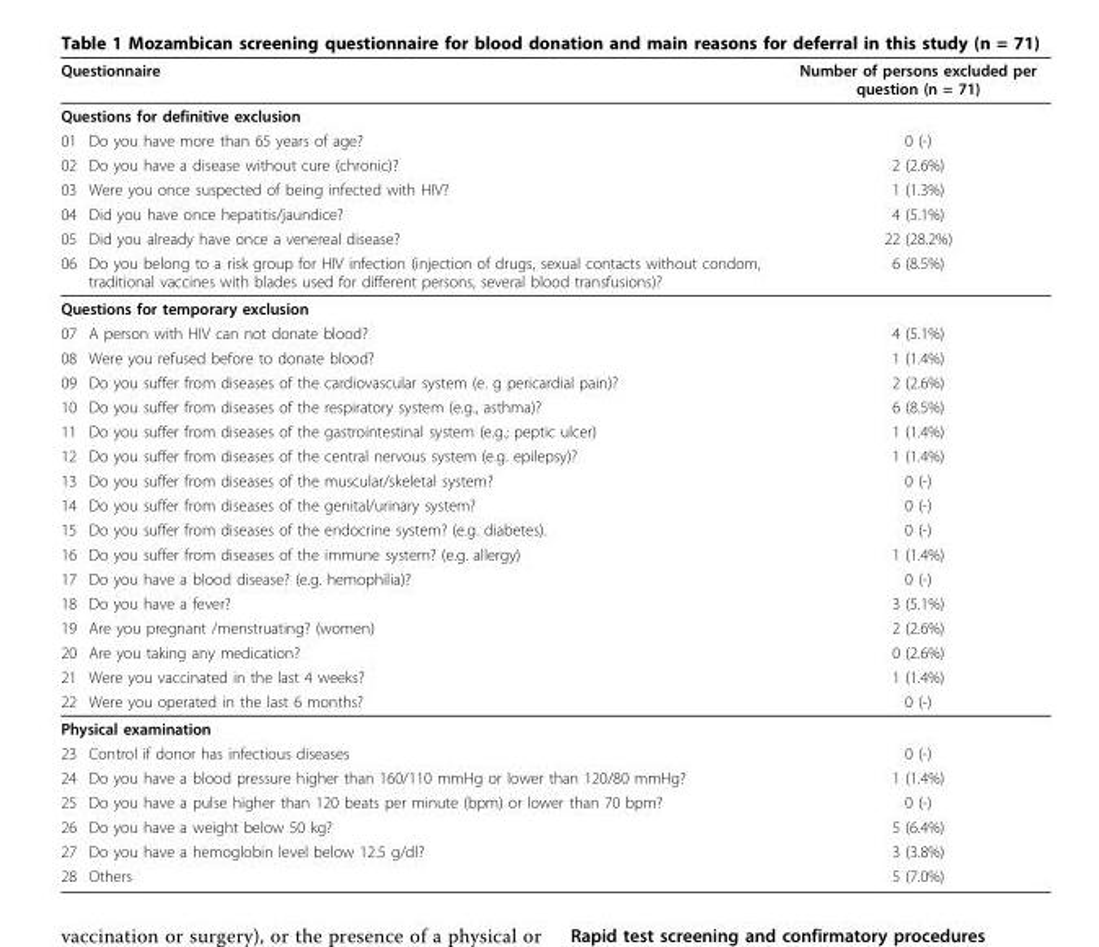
<table><thead><tr><td rowspan="2" colspan="2">Questionnaire Questions for definitive exclusion</td><td rowspan="3">Number of persons excluded per question (n = 71) 0 (-)</td></tr><tr></tr><tr><td>01</td><td>Do you have more than 65 years of age?</td></tr></thead><tbody><tr><td>02</td><td>Do you have a disease without cure (chronic)?</td><td>2 (2.6%)</td></tr><tr><td>03</td><td>Were you once suspected of being infected with HIV?</td><td>1 (1.3%)</td></tr><tr><td>04</td><td>Did you have once hepatitis/jaundice?</td><td>4 (5.1%)</td></tr><tr><td>05</td><td>Did you already have once a venereal disease?</td><td>22 (28.2%)</td></tr><tr><td>06</td><td>Do you belong to a risk group for HIV infection (injection of drugs, sexual contacts without condom, traditional vaccines with blades used for different persons, several blood transfusions)?</td><td>6 (8.5%)</td></tr><tr><td colspan="3">Questions for temporary exclusion</td></tr><tr><td>07</td><td>A person with HIV can not donate blood?</td><td>4 (5.1%)</td></tr><tr><td>08</td><td>Were you refused before to donate blood?</td><td>1 (1.4%)</td></tr><tr><td>09</td><td>Do you suffer from diseases of the cardiovascular system (e. g pericardial pain)?</td><td>2 (2.6%)</td></tr><tr><td>10</td><td>Do you suffer from diseases of the respiratory system (e.g., asthma)?</td><td>6 (8.5%)</td></tr><tr><td>11</td><td>Do you suffer from diseases of the gastrointestinal system (e.g.; peptic ulcer)</td><td>1 (1.4%)</td></tr><tr><td>12</td><td>Do you suffer from diseases of the central nervous system (e.g. epilepsy)?</td><td>1 (1.4%)</td></tr><tr><td>13</td><td>Do you suffer from diseases of the muscular/skeletal system?</td><td>0 (-)</td></tr><tr><td>14</td><td>Do you suffer from diseases of the genital/urinary system?</td><td>0 (-)</td></tr><tr><td>15</td><td>Do you suffer from diseases of the endocrine system? (e.g. diabetes).</td><td>0 (-)</td></tr><tr><td>16</td><td>Do you suffer from diseases of the immune system? (e.g. allergy)</td><td>1 (1.4%)</td></tr><tr><td>17</td><td>Do you have a blood disease? (e.g. hemophilia)?</td><td>0 (-)</td></tr><tr><td>18</td><td>Do you have a fever?</td><td>3 (5.1%)</td></tr><tr><td>19</td><td>Are you pregnant /menstruating? (women)</td><td>2 (2.6%)</td></tr><tr><td>20</td><td>Are you taking any medication?</td><td>0 (2.6%)</td></tr><tr><td>21</td><td>Were you vaccinated in the last 4 weeks?</td><td>1 (1.4%)</td></tr><tr><td>22</td><td>Were you operated in the last 6 months?</td><td>0 (-)</td></tr><tr><td colspan="3">Physical examination</td></tr><tr><td>23</td><td>Control if donor has infectious diseases</td><td>0 (-)</td></tr><tr><td>24</td><td>Do you have a blood pressure higher than 160/110 mmHg or lower than 120/80 mmHg?</td><td>1 (1.4%)</td></tr><tr><td>25</td><td>Do you have a pulse higher than 120 beats per minute (bpm) or lower than 70 bpm?</td><td>0 (-)</td></tr><tr><td>26</td><td>Do you have a weight below 50 kg?</td><td>5 (6.4%)</td></tr><tr><td>27</td><td>Do you have a hemoglobin level below 12.5 g/dl?</td><td>3 (3.8%)</td></tr><tr><td>28</td><td>Others</td><td>5 (7.0%)</td></tr></tbody></table>